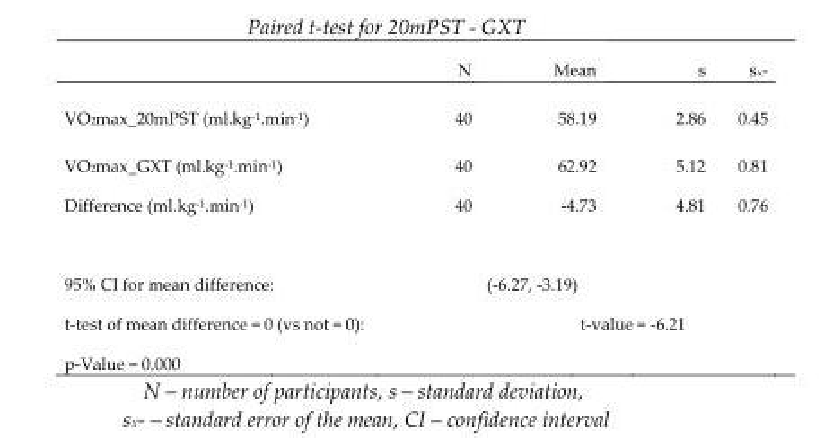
<table><thead><tr><td></td><td>N</td><td>Mean</td><td>s</td><td>s<sub>x</sub><sup><sub>-</sub></sup></td></tr></thead><tbody><tr><td>VO<sub>2</sub>max_20mPST (ml.kg<sup>-1</sup>.min<sup>-1</sup>)</td><td>40</td><td>58.19</td><td>2.86</td><td>0.45</td></tr><tr><td>VO<sub>2</sub>max_GXT (ml.kg<sup>-1</sup>.min<sup>-1</sup>)</td><td>40</td><td>62.92</td><td>5.12</td><td>0.81</td></tr><tr><td>Difference (ml.kg<sup>-1</sup>.min<sup>-1</sup>)</td><td>40</td><td>-4.73</td><td>4.81</td><td>0.76</td></tr><tr><td>95% CI for mean difference:</td><td colspan="2">(-6.27, -3.19)</td><td></td><td></td></tr><tr><td>t-test of mean difference = 0 (vs not = 0):</td><td colspan="4">t-value = -6.21</td></tr><tr><td>p-Value = 0.000</td><td></td><td></td><td></td><td></td></tr></tbody></table>